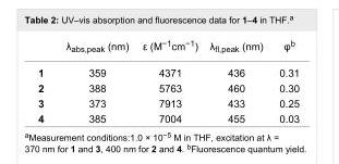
<table><thead><tr><td></td><td>λabs,peak (nm)</td><td>ε (M−1cm−1)</td><td>λ<sub>fl,peak</sub> (nm)</td><td>φ<sup>b</sup></td></tr></thead><tbody><tr><td>1</td><td>359</td><td>4371</td><td>436</td><td>0.31</td></tr><tr><td>2</td><td>388</td><td>5763</td><td>460</td><td>0.30</td></tr><tr><td>3</td><td>373</td><td>7913</td><td>433</td><td>0.25</td></tr><tr><td>4</td><td>385</td><td>7004</td><td>455</td><td>0.03</td></tr></tbody></table>